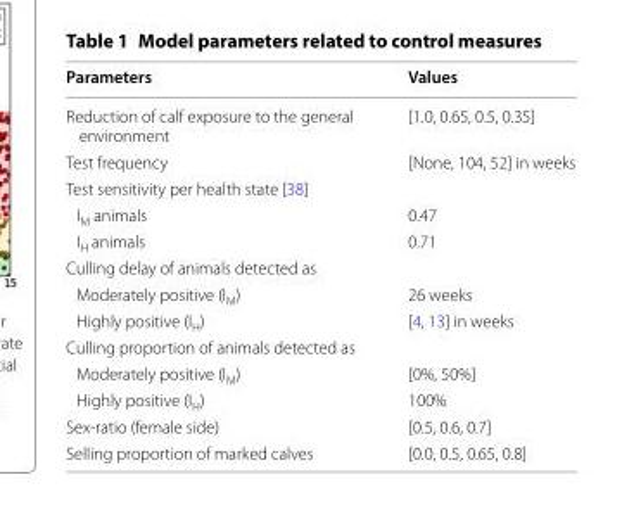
<table><thead><tr><td>Parameters</td><td>Values</td></tr></thead><tbody><tr><td>Reduction of calf exposure to the general environment</td><td>[1.0, 0.65, 0.5, 0.35]</td></tr><tr><td>Test frequency</td><td>[None, 104, 52] in weeks</td></tr><tr><td colspan="2">Test sensitivity per health state [38]</td></tr><tr><td>I<sub>M</sub> animals</td><td>0.47</td></tr><tr><td>I<sub>H</sub> animals</td><td>0.71</td></tr><tr><td colspan="2">Culling delay of animals detected as</td></tr><tr><td>Moderately positive (I<sub>M</sub>)</td><td>26 weeks</td></tr><tr><td>Highly positive (I<sub>H</sub>)</td><td>[4, 13] in weeks</td></tr><tr><td colspan="2">Culling proportion of animals detected as</td></tr><tr><td>Moderately positive (I<sub>M</sub>)</td><td>[0%, 50%]</td></tr><tr><td>Highly positive (I<sub>H</sub>)</td><td>100%</td></tr><tr><td>Sex-ratio (female side)</td><td>[0.5, 0.6, 0.7]</td></tr><tr><td>Selling proportion of marked calves</td><td>[0.0, 0.5, 0.65, 0.8]</td></tr></tbody></table>